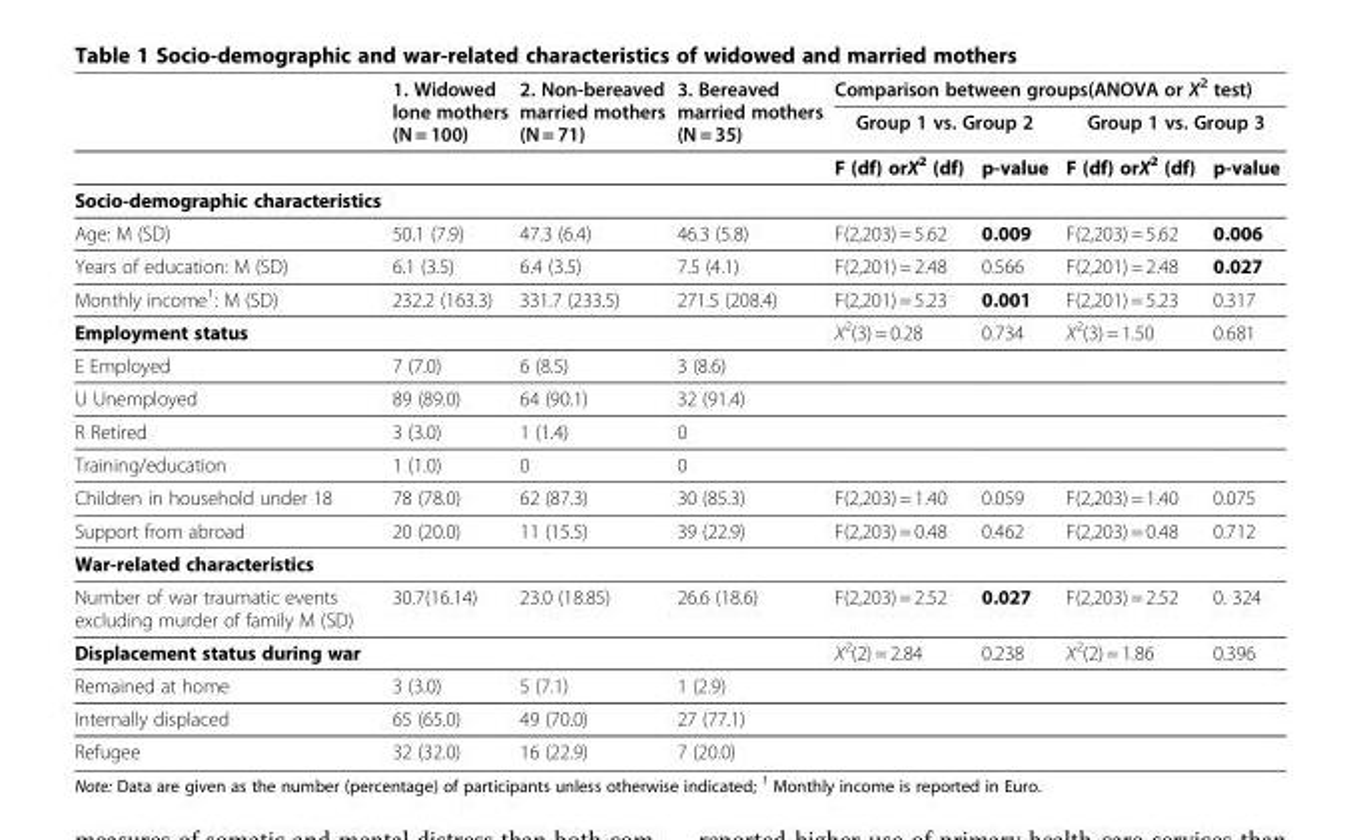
<table><thead><tr><td rowspan="3"></td><td rowspan="3">1. Widowed lone mothers (N = 100)</td><td rowspan="3">2. Non-bereaved married mothers (N = 71)</td><td rowspan="3">3. Bereaved married mothers (N = 35)</td><td colspan="4">Comparison between groups(ANOVA or X<sup>2</sup> test)</td></tr><tr><td colspan="2">Group 1 vs. Group 2</td><td colspan="2">Group 1 vs. Group 3</td></tr><tr><td>F (df) orX<sup>2</sup> (df)</td><td>p-value</td><td>F (df) orX<sup>2</sup> (df)</td><td>p-value</td></tr></thead><tbody><tr><td colspan="8">Socio-demographic characteristics</td></tr><tr><td>Age: M (SD)</td><td>50.1 (7.9)</td><td>47.3 (6.4)</td><td>46.3 (5.8)</td><td>F(2,203) = 5.62</td><td>0.009</td><td>F(2,203) = 5.62</td><td>0.006</td></tr><tr><td>Years of education: M (SD)</td><td>6.1 (3.5)</td><td>6.4 (3.5)</td><td>7.5 (4.1)</td><td>F(2,201) = 2.48</td><td>0.566</td><td>F(2,201) = 2.48</td><td>0.027</td></tr><tr><td>Monthly income<sup>1</sup>: M (SD)</td><td>232.2 (163.3)</td><td>331.7 (233.5)</td><td>271.5 (208.4)</td><td>F(2,201) = 5.23</td><td>0.001</td><td>F(2,201) = 5.23</td><td>0.317</td></tr><tr><td>Employment status</td><td></td><td></td><td></td><td>X<sup>2</sup>(3) = 0.28</td><td>0.734</td><td>X<sup>2</sup>(3) = 1.50</td><td>0.681</td></tr><tr><td>E Employed</td><td>7 (7.0)</td><td>6 (8.5)</td><td>3 (8.6)</td><td></td><td></td><td></td><td></td></tr><tr><td>U Unemployed</td><td>89 (89.0)</td><td>64 (90.1)</td><td>32 (91.4)</td><td></td><td></td><td></td><td></td></tr><tr><td>R Retired</td><td>3 (3.0)</td><td>1 (1.4)</td><td>0</td><td></td><td></td><td></td><td></td></tr><tr><td>Training/education</td><td>1 (1.0)</td><td>0</td><td>0</td><td></td><td></td><td></td><td></td></tr><tr><td>Children in household under 18</td><td>78 (78.0)</td><td>62 (87.3)</td><td>30 (85.3)</td><td>F(2,203) = 1.40</td><td>0.059</td><td>F(2,203) = 1.40</td><td>0.075</td></tr><tr><td>Support from abroad</td><td>20 (20.0)</td><td>11 (15.5)</td><td>39 (22.9)</td><td>F(2,203) = 0.48</td><td>0.462</td><td>F(2,203) = 0.48</td><td>0.712</td></tr><tr><td colspan="8">War-related characteristics</td></tr><tr><td>Number of war traumatic events excluding murder of family M (SD)</td><td>30.7(16.14)</td><td>23.0 (18.85)</td><td>26.6 (18.6)</td><td>F(2,203) = 2.52</td><td>0.027</td><td>F(2,203) = 2.52</td><td>0. 324</td></tr><tr><td>Displacement status during war</td><td></td><td></td><td></td><td>X<sup>2</sup>(2) = 2.84</td><td>0.238</td><td>X<sup>2</sup>(2) = 1.86</td><td>0.396</td></tr><tr><td>Remained at home</td><td>3 (3.0)</td><td>5 (7.1)</td><td>1 (2.9)</td><td></td><td></td><td></td><td></td></tr><tr><td>Internally displaced</td><td>65 (65.0)</td><td>49 (70.0)</td><td>27 (77.1)</td><td></td><td></td><td></td><td></td></tr><tr><td>Refugee</td><td>32 (32.0)</td><td>16 (22.9)</td><td>7 (20.0)</td><td></td><td></td><td></td><td></td></tr></tbody></table>